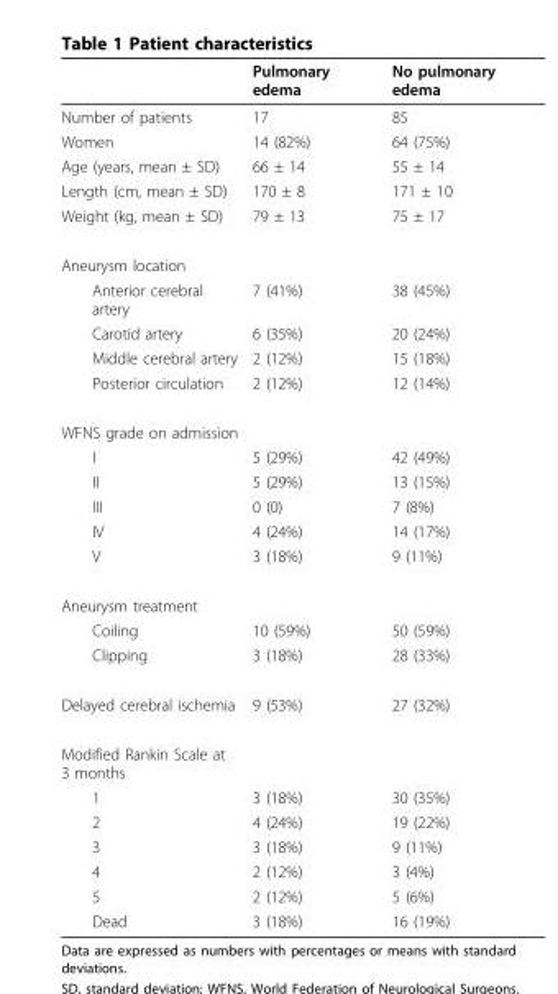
<table><thead><tr><td></td><td>Pulmonary edema</td><td>No pulmonary edema</td></tr></thead><tbody><tr><td>Number of patients</td><td>17</td><td>85</td></tr><tr><td>Women</td><td>14 (82%)</td><td>64 (75%)</td></tr><tr><td>Age (years, mean ± SD)</td><td>66 ± 14</td><td>55 ± 14</td></tr><tr><td>Length (cm, mean ± SD)</td><td>170 ± 8</td><td>171 ± 10</td></tr><tr><td>Weight (kg, mean ± SD)</td><td>79 ± 13</td><td>75 ± 17</td></tr><tr><td colspan="3">Aneurysm location</td></tr><tr><td>Anterior cerebral artery</td><td>7 (41%)</td><td>38 (45%)</td></tr><tr><td>Carotid artery</td><td>6 (35%)</td><td>20 (24%)</td></tr><tr><td>Middle cerebral artery</td><td>2 (12%)</td><td>15 (18%)</td></tr><tr><td>Posterior circulation</td><td>2 (12%)</td><td>12 (14%)</td></tr><tr><td colspan="3">WFNS grade on admission</td></tr><tr><td>I</td><td>5 (29%)</td><td>42 (49%)</td></tr><tr><td>II</td><td>5 (29%)</td><td>13 (15%)</td></tr><tr><td>III</td><td>0 (0)</td><td>7 (8%)</td></tr><tr><td>IV</td><td>4 (24%)</td><td>14 (17%)</td></tr><tr><td>V</td><td>3 (18%)</td><td>9 (11%)</td></tr><tr><td colspan="3">Aneurysm treatment</td></tr><tr><td>Coiling</td><td>10 (59%)</td><td>50 (59%)</td></tr><tr><td>Clipping</td><td>3 (18%)</td><td>28 (33%)</td></tr><tr><td>Delayed cerebral ischemia</td><td>9 (53%)</td><td>27 (32%)</td></tr><tr><td colspan="3">Modified Rankin Scale at 3 months</td></tr><tr><td>1</td><td>3 (18%)</td><td>30 (35%)</td></tr><tr><td>2</td><td>4 (24%)</td><td>19 (22%)</td></tr><tr><td>3</td><td>3 (18%)</td><td>9 (11%)</td></tr><tr><td>4</td><td>2 (12%)</td><td>3 (4%)</td></tr><tr><td>5</td><td>2 (12%)</td><td>5 (6%)</td></tr><tr><td>Dead</td><td>3 (18%)</td><td>16 (19%)</td></tr></tbody></table>